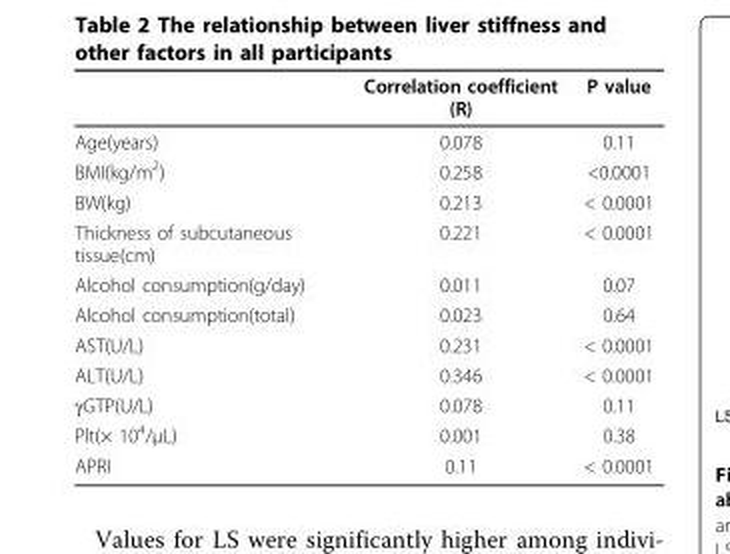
<table><thead><tr><td></td><td>Correlation coefficient (R)</td><td>P value</td></tr></thead><tbody><tr><td>Age(years)</td><td>0.078</td><td>0.11</td></tr><tr><td>BMI(kg/m<sup>2</sup>)</td><td>0.258</td><td>&lt;0.0001</td></tr><tr><td>BW(kg)</td><td>0.213</td><td>&lt; 0.0001</td></tr><tr><td>Thickness of subcutaneous tissue(cm)</td><td>0.221</td><td>&lt; 0.0001</td></tr><tr><td>Alcohol consumption(g/day)</td><td>0.011</td><td>0.07</td></tr><tr><td>Alcohol consumption(total)</td><td>0.023</td><td>0.64</td></tr><tr><td>AST(U/L)</td><td>0.231</td><td>&lt; 0.0001</td></tr><tr><td>ALT(U/L)</td><td>0.346</td><td>&lt; 0.0001</td></tr><tr><td>γGTP(U/L)</td><td>0.078</td><td>0.11</td></tr><tr><td>Plt(× 10<sup>4</sup>/μL)</td><td>0.001</td><td>0.38</td></tr><tr><td>APRI</td><td>0.11</td><td>&lt; 0.0001</td></tr></tbody></table>